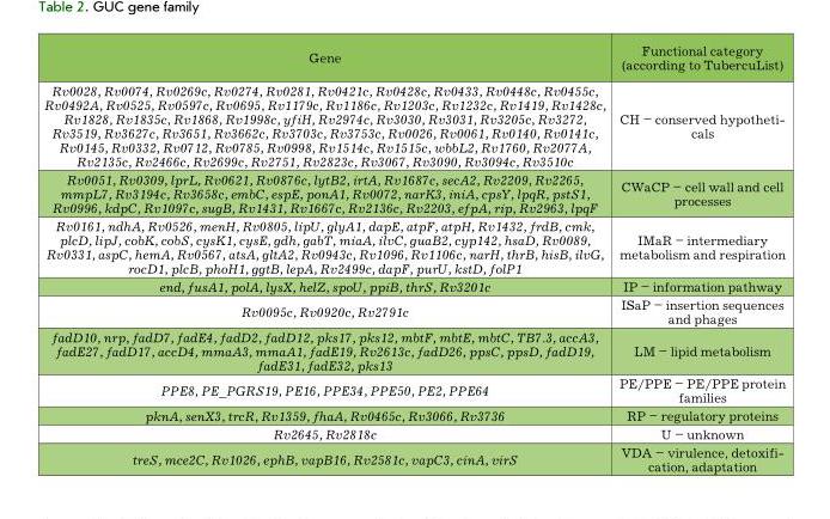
<table><thead><tr><td>Gene</td><td>Functional category (according to tubercuList)</td></tr></thead><tbody><tr><td>Rv0028, Rv0074, Rv0269c, Rv0274, Rv0281, Rv0421c, Rv0428c, Rv0433, Rv0448c, Rv0455c, Rv0492A, Rv0525, Rv0597c, Rv0695, Rv1179c, Rv1186c, Rv1203c, Rv1232c, Rv1419, Rv1428c, Rv1828, Rv1835c, Rv1868, Rv1998c, yfiH, Rv2974c, Rv3030, Rv3031, Rv3205c, Rv3272, Rv3519, Rv3627c, Rv3651, Rv3662c, Rv3703c, Rv3753c, Rv0026, Rv0061, Rv0140, Rv0141c, Rv0145, Rv0332, Rv0712, Rv0785, Rv0998, Rv1514c, Rv1515c, wbbL2, Rv1760, Rv2077A, Rv2135c, Rv2466c, Rv2699c, Rv2751, Rv2823c, Rv3067, Rv3090, Rv3094c, Rv3510c</td><td>cH – conserved hypotheti- cals</td></tr><tr><td>Rv0051, Rv0309, lprL, Rv0621, Rv0876c, lytB2, irtA, Rv1687c, secA2, Rv2209, Rv2265, mmpL7, Rv3194c, Rv3658c, embC, espE, ponA1, Rv0072, narK3, iniA, cpsY, lpqR, pstS1, Rv0996, kdpC, Rv1097c, sugB, Rv1431, Rv1667c, Rv2136c, Rv2203, efpA, rip, Rv2963, lpqF</td><td>cWacP – cell wall and cell processes</td></tr><tr><td>Rv0161, ndhA, Rv0526, menH, Rv0805, lipU, glyA1, dapE, atpF, atpH, Rv1432, frdB, cmk, plcD, lipJ, cobK, cobS, cysK1, cysE, gdh, gabT, miaA, ilvC, guaB2, cyp142, hsaD, Rv0089, Rv0331, aspC, hemA, Rv0567, atsA, gltA2, Rv0943c, Rv1096, Rv1106c, narH, thrB, hisB, ilvG, rocD1, plcB, phoH1, ggtB, lepA, Rv2499c, dapF, purU, kstD, folP1</td><td>IMar – intermediary metabolism and respiration</td></tr><tr><td>end, fusA1, polA, lysX, helZ, spoU, ppiB, thrS, Rv3201c</td><td>IP – information pathway</td></tr><tr><td>Rv0095c, Rv0920c, Rv2791c</td><td>ISaP – insertion sequences and phages</td></tr><tr><td>fadD10, nrp, fadD7, fadE4, fadD2, fadD12, pks17, pks12, mbtF, mbtE, mbtC, TB7.3, accA3, fadE27, fadD17, accD4, mmaA3, mmaA1, fadE19, Rv2613c, fadD26, ppsC, ppsD, fadD19, fadE31, fadE32, pks13</td><td>LM – lipid metabolism</td></tr><tr><td>PPE8, PE_PGRS19, PE16, PPE34, PPE50, PE2, PPE64</td><td>Pe/PPe – Pe/PPe protein families</td></tr><tr><td>pknA, senX3, trcR, Rv1359, fhaA, Rv0465c, Rv3066, Rv3736</td><td>rP – regulatory proteins</td></tr><tr><td>Rv2645, Rv2818c</td><td>u – unknown</td></tr><tr><td>treS, mce2C, Rv1026, ephB, vapB16, Rv2581c, vapC3, cinA, virS</td><td>VDA – virulence, detoxifi- cation, adaptation</td></tr></tbody></table>